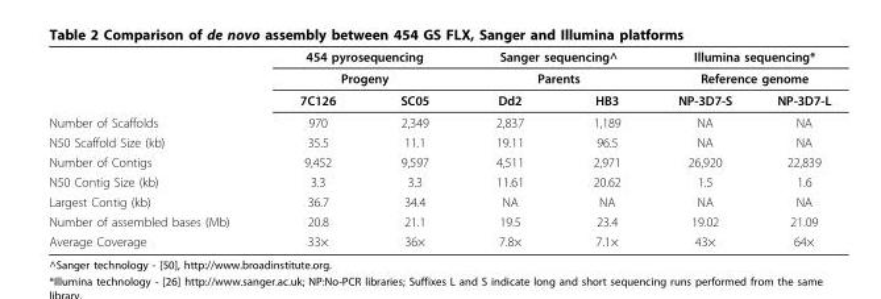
<table><thead><tr><td rowspan="3"></td><td rowspan="2" colspan="2">454 pyrosequencing Progeny</td><td rowspan="2" colspan="2">Sanger sequencing^ Parents</td><td rowspan="2" colspan="2">Illumina sequencing* Reference genome</td></tr><tr></tr><tr><td>7C126</td><td>SC05</td><td>Dd2</td><td>HB3</td><td>NP-3D7-S</td><td>NP-3D7-L</td></tr></thead><tbody><tr><td>Number of Scaffolds</td><td>970</td><td>2,349</td><td>2,837</td><td>1,189</td><td>NA</td><td>NA</td></tr><tr><td>N50 Scaffold Size (kb)</td><td>35.5</td><td>11.1</td><td>19.11</td><td>96.5</td><td>NA</td><td>NA</td></tr><tr><td>Number of Contigs</td><td>9,452</td><td>9,597</td><td>4,511</td><td>2,971</td><td>26,920</td><td>22,839</td></tr><tr><td>N50 Contig Size (kb)</td><td>3.3</td><td>3.3</td><td>11.61</td><td>20.62</td><td>1.5</td><td>1.6</td></tr><tr><td>Largest Contig (kb)</td><td>36.7</td><td>34.4</td><td>NA</td><td>NA</td><td>NA</td><td>NA</td></tr><tr><td>Number of assembled bases (Mb)</td><td>20.8</td><td>21.1</td><td>19.5</td><td>23.4</td><td>19.02</td><td>21.09</td></tr><tr><td>Average Coverage</td><td>33×</td><td>36×</td><td>7.8×</td><td>7.1×</td><td>43×</td><td>64×</td></tr></tbody></table>